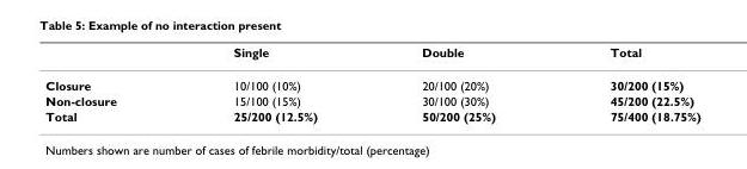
<table><thead><tr><td></td><td>Single</td><td>Double</td><td>Total</td></tr></thead><tbody><tr><td>Closure</td><td>10/100 (10%)</td><td>20/100 (20%)</td><td>30/200 (15%)</td></tr><tr><td>Non-closure</td><td>15/100 (15%)</td><td>30/100 (30%)</td><td>45/200 (22.5%)</td></tr><tr><td>Total</td><td>25/200 (12.5%)</td><td>50/200 (25%)</td><td>75/400 (18.75%)</td></tr></tbody></table>